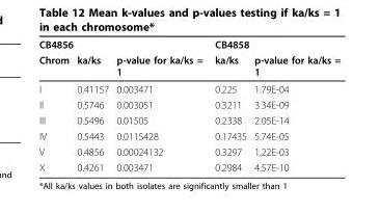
<table><thead><tr><td colspan="3">CB4856</td><td colspan="2">CB4858</td></tr><tr><td>Chrom</td><td>ka/ks</td><td>p-value for ka/ks = 1</td><td>ka/ks</td><td>p-value for ka/ks = 1</td></tr></thead><tbody><tr><td>I</td><td>0.41157</td><td>0.003471</td><td>0.225</td><td>1.79E-04</td></tr><tr><td>II</td><td>0.5746</td><td>0.003051</td><td>0.3211</td><td>3.34E-09</td></tr><tr><td>III</td><td>0.5496</td><td>0.01505</td><td>0.2338</td><td>2.05E-14</td></tr><tr><td>IV</td><td>0.5443</td><td>0.0115428</td><td>0.17435</td><td>5.74E-05</td></tr><tr><td>V</td><td>0.4856</td><td>0.00024132</td><td>0.3297</td><td>1.22E-03</td></tr><tr><td>X</td><td>0.4261</td><td>0.003471</td><td>0.2984</td><td>4.57E-10</td></tr></tbody></table>